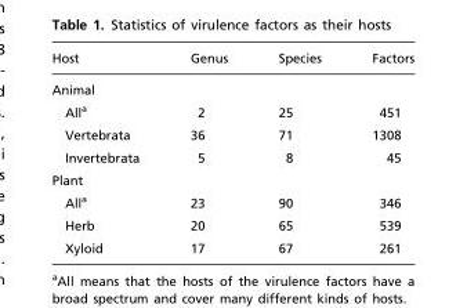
<table><thead><tr><td>Host</td><td>Genus</td><td>Species</td><td>Factors</td></tr></thead><tbody><tr><td colspan="4">Animal</td></tr><tr><td>All<sup>a</sup></td><td>2</td><td>25</td><td>451</td></tr><tr><td>Vertebrata</td><td>36</td><td>71</td><td>1308</td></tr><tr><td>Invertebrata</td><td>5</td><td>8</td><td>45</td></tr><tr><td colspan="4">Plant</td></tr><tr><td>All<sup>a</sup></td><td>23</td><td>90</td><td>346</td></tr><tr><td>Herb</td><td>20</td><td>65</td><td>539</td></tr><tr><td>Xyloid</td><td>17</td><td>67</td><td>261</td></tr></tbody></table>